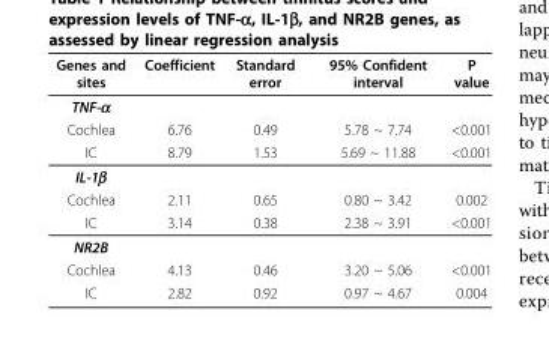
<table><thead><tr><td>Genes and sites</td><td>Coefficient</td><td>Standard error</td><td>95% Confident interval</td><td>P value</td></tr></thead><tbody><tr><td colspan="5">TNF-α</td></tr><tr><td>Cochlea</td><td>6.76</td><td>0.49</td><td>5.78 ~ 7.74</td><td>&lt;0.001</td></tr><tr><td>IC</td><td>8.79</td><td>1.53</td><td>5.69 ~ 11.88</td><td>&lt;0.001</td></tr><tr><td colspan="5">IL-1β</td></tr><tr><td>Cochlea</td><td>2.11</td><td>0.65</td><td>0.80 ~ 3.42</td><td>0.002</td></tr><tr><td>IC</td><td>3.14</td><td>0.38</td><td>2.38 ~ 3.91</td><td>&lt;0.001</td></tr><tr><td colspan="5">NR2B</td></tr><tr><td>Cochlea</td><td>4.13</td><td>0.46</td><td>3.20 ~ 5.06</td><td>&lt;0.001</td></tr><tr><td>IC</td><td>2.82</td><td>0.92</td><td>0.97 ~ 4.67</td><td>0.004</td></tr></tbody></table>